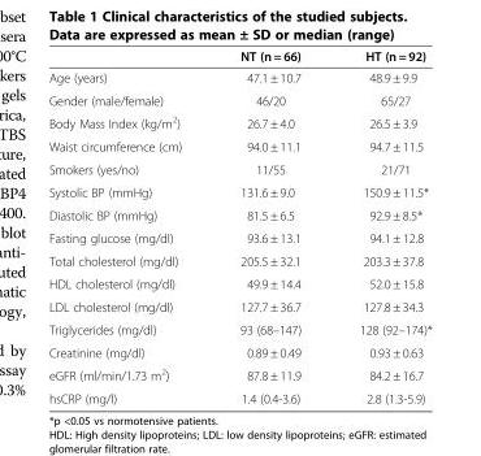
<table><thead><tr><td></td><td>NT (n = 66)</td><td>HT (n = 92)</td></tr></thead><tbody><tr><td>Age (years)</td><td>47.1 ± 10.7</td><td>48.9 ± 9.9</td></tr><tr><td>Gender (male/female)</td><td>46/20</td><td>65/27</td></tr><tr><td>Body Mass Index (kg/m<sup>2</sup>)</td><td>26.7 ± 4.0</td><td>26.5 ± 3.9</td></tr><tr><td>Waist circumference (cm)</td><td>94.0 ± 11.1</td><td>94.7 ± 11.5</td></tr><tr><td>Smokers (yes/no)</td><td>11/55</td><td>21/71</td></tr><tr><td>Systolic BP (mmHg)</td><td>131.6 ± 9.0</td><td>150.9 ± 11.5*</td></tr><tr><td>Diastolic BP (mmHg)</td><td>81.5 ± 6.5</td><td>92.9 ± 8.5*</td></tr><tr><td>Fasting glucose (mg/dl)</td><td>93.6 ± 13.1</td><td>94.1 ± 12.8</td></tr><tr><td>Total cholesterol (mg/dl)</td><td>205.5 ± 32.1</td><td>203.3 ± 37.8</td></tr><tr><td>HDL cholesterol (mg/dl)</td><td>49.9 ± 14.4</td><td>52.0 ± 15.8</td></tr><tr><td>LDL cholesterol (mg/dl)</td><td>127.7 ± 36.7</td><td>127.8 ± 34.3</td></tr><tr><td>Triglycerides (mg/dl)</td><td>93 (68–147)</td><td>128 (92–174)*</td></tr><tr><td>Creatinine (mg/dl)</td><td>0.89 ± 0.49</td><td>0.93 ± 0.63</td></tr><tr><td>eGFR (ml/min/1.73 m<sup>2</sup>)</td><td>87.8 ± 11.9</td><td>84.2 ± 16.7</td></tr><tr><td>hsCRP (mg/l)</td><td>1.4 (0.4-3.6)</td><td>2.8 (1.3-5.9)</td></tr></tbody></table>